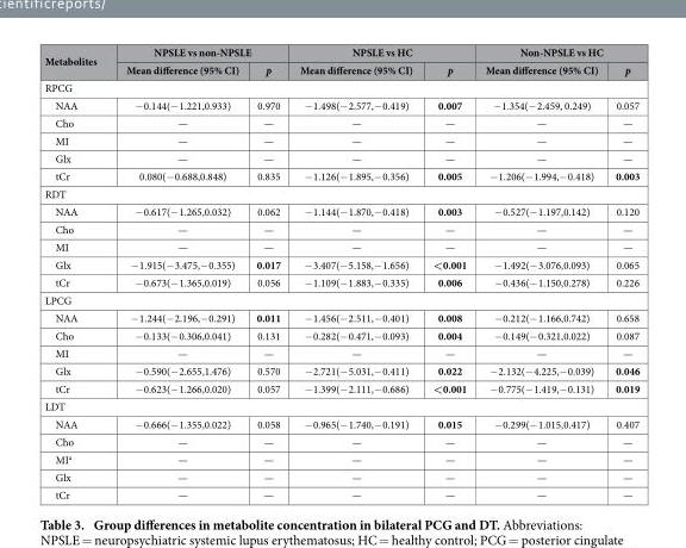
<table><thead><tr><td rowspan="2">Metabolites</td><td colspan="2">NPSLE vs non-NPSLE</td><td colspan="2">NPSLE vs HC</td><td colspan="2">Non-NPSLE vs HC</td></tr><tr><td>Mean difference (95% CI)</td><td>p</td><td>Mean difference (95% CI)</td><td>p</td><td>Mean difference (95% CI)</td><td>p</td></tr></thead><tbody><tr><td colspan="7">RPCG</td></tr><tr><td>NAA</td><td>− 0.144(− 1.221,0.933)</td><td>0.970</td><td>− 1.498(− 2.577,− 0.419)</td><td>0.007</td><td>− 1.354(− 2.459, 0.249)</td><td>0.057</td></tr><tr><td>Cho</td><td>—</td><td>—</td><td>—</td><td>—</td><td>—</td><td>—</td></tr><tr><td>MI</td><td>—</td><td>—</td><td>—</td><td>—</td><td>—</td><td>—</td></tr><tr><td>Glx</td><td>—</td><td>—</td><td>—</td><td>—</td><td>—</td><td>—</td></tr><tr><td>tCr</td><td>0.080(− 0.688,0.848)</td><td>0.835</td><td>− 1.126(− 1.895,− 0.356)</td><td>0.005</td><td>− 1.206(− 1.994,− 0.418)</td><td>0.003</td></tr><tr><td colspan="7">RDT</td></tr><tr><td>NAA</td><td>− 0.617(− 1.265,0.032)</td><td>0.062</td><td>− 1.144(− 1.870,− 0.418)</td><td>0.003</td><td>− 0.527(− 1.197,0.142)</td><td>0.120</td></tr><tr><td>Cho</td><td>—</td><td>—</td><td>—</td><td>—</td><td>—</td><td>—</td></tr><tr><td>MI</td><td>—</td><td>—</td><td>—</td><td>—</td><td>—</td><td>—</td></tr><tr><td>Glx</td><td>− 1.915(− 3.475,− 0.355)</td><td>0.017</td><td>− 3.407(− 5.158,− 1.656)</td><td>&lt;0.001</td><td>− 1.492(− 3.076,0.093)</td><td>0.065</td></tr><tr><td>tCr</td><td>− 0.673(− 1.365,0.019)</td><td>0.056</td><td>− 1.109(− 1.883,− 0.335)</td><td>0.006</td><td>− 0.436(− 1.150,0.278)</td><td>0.226</td></tr><tr><td colspan="7">LPCG</td></tr><tr><td>NAA</td><td>− 1.244(− 2.196,− 0.291)</td><td>0.011</td><td>− 1.456(− 2.511,− 0.401)</td><td>0.008</td><td>− 0.212(− 1.166,0.742)</td><td>0.658</td></tr><tr><td>Cho</td><td>− 0.133(− 0.306,0.041)</td><td>0.131</td><td>− 0.282(− 0.471,− 0.093)</td><td>0.004</td><td>− 0.149(− 0.321,0.022)</td><td>0.087</td></tr><tr><td>MI</td><td>—</td><td>—</td><td>—</td><td>—</td><td>—</td><td>—</td></tr><tr><td>Glx</td><td>− 0.590(− 2.655,1.476)</td><td>0.570</td><td>− 2.721(− 5.031,− 0.411)</td><td>0.022</td><td>− 2.132(− 4.225,− 0.039)</td><td>0.046</td></tr><tr><td>tCr</td><td>− 0.623(− 1.266,0.020)</td><td>0.057</td><td>− 1.399(− 2.111,− 0.686)</td><td>&lt;0.001</td><td>− 0.775(− 1.419,− 0.131)</td><td>0.019</td></tr><tr><td colspan="7">LDT</td></tr><tr><td>NAA</td><td>− 0.666(− 1.355,0.022)</td><td>0.058</td><td>− 0.965(− 1.740,− 0.191)</td><td>0.015</td><td>− 0.299(− 1.015,0.417)</td><td>0.407</td></tr><tr><td>Cho</td><td>—</td><td>—</td><td>—</td><td>—</td><td>—</td><td>—</td></tr><tr><td>MI<sup>a</sup></td><td>—</td><td>—</td><td>—</td><td>—</td><td>—</td><td>—</td></tr><tr><td>Glx</td><td>—</td><td>—</td><td>—</td><td>—</td><td>—</td><td>—</td></tr><tr><td>tCr</td><td>—</td><td>—</td><td>—</td><td>—</td><td>—</td><td>—</td></tr></tbody></table>